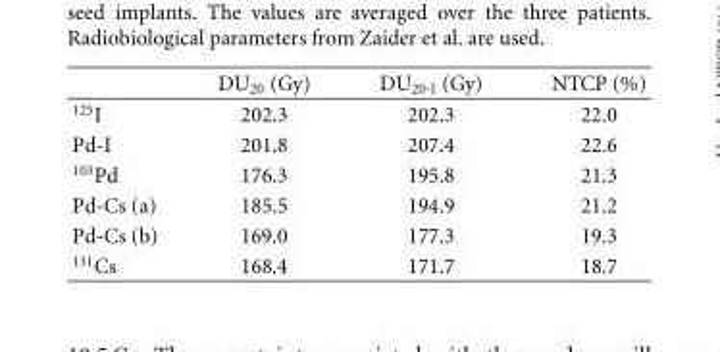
<table><thead><tr><td></td><td>DU<sub>20</sub> (Gy)</td><td>DU<sub>20-I</sub> (Gy)</td><td>NTCP (%)</td></tr></thead><tbody><tr><td><sup>125</sup>I</td><td>202.3</td><td>202.3</td><td>22.0</td></tr><tr><td>Pd-I</td><td>201.8</td><td>207.4</td><td>22.6</td></tr><tr><td><sup>103</sup>Pd</td><td>176.3</td><td>195.8</td><td>21.3</td></tr><tr><td>Pd-Cs (a)</td><td>185.5</td><td>194.9</td><td>21.2</td></tr><tr><td>Pd-Cs (b)</td><td>169.0</td><td>177.3</td><td>19.3</td></tr><tr><td><sup>131</sup>Cs</td><td>168.4</td><td>171.7</td><td>18.7</td></tr></tbody></table>